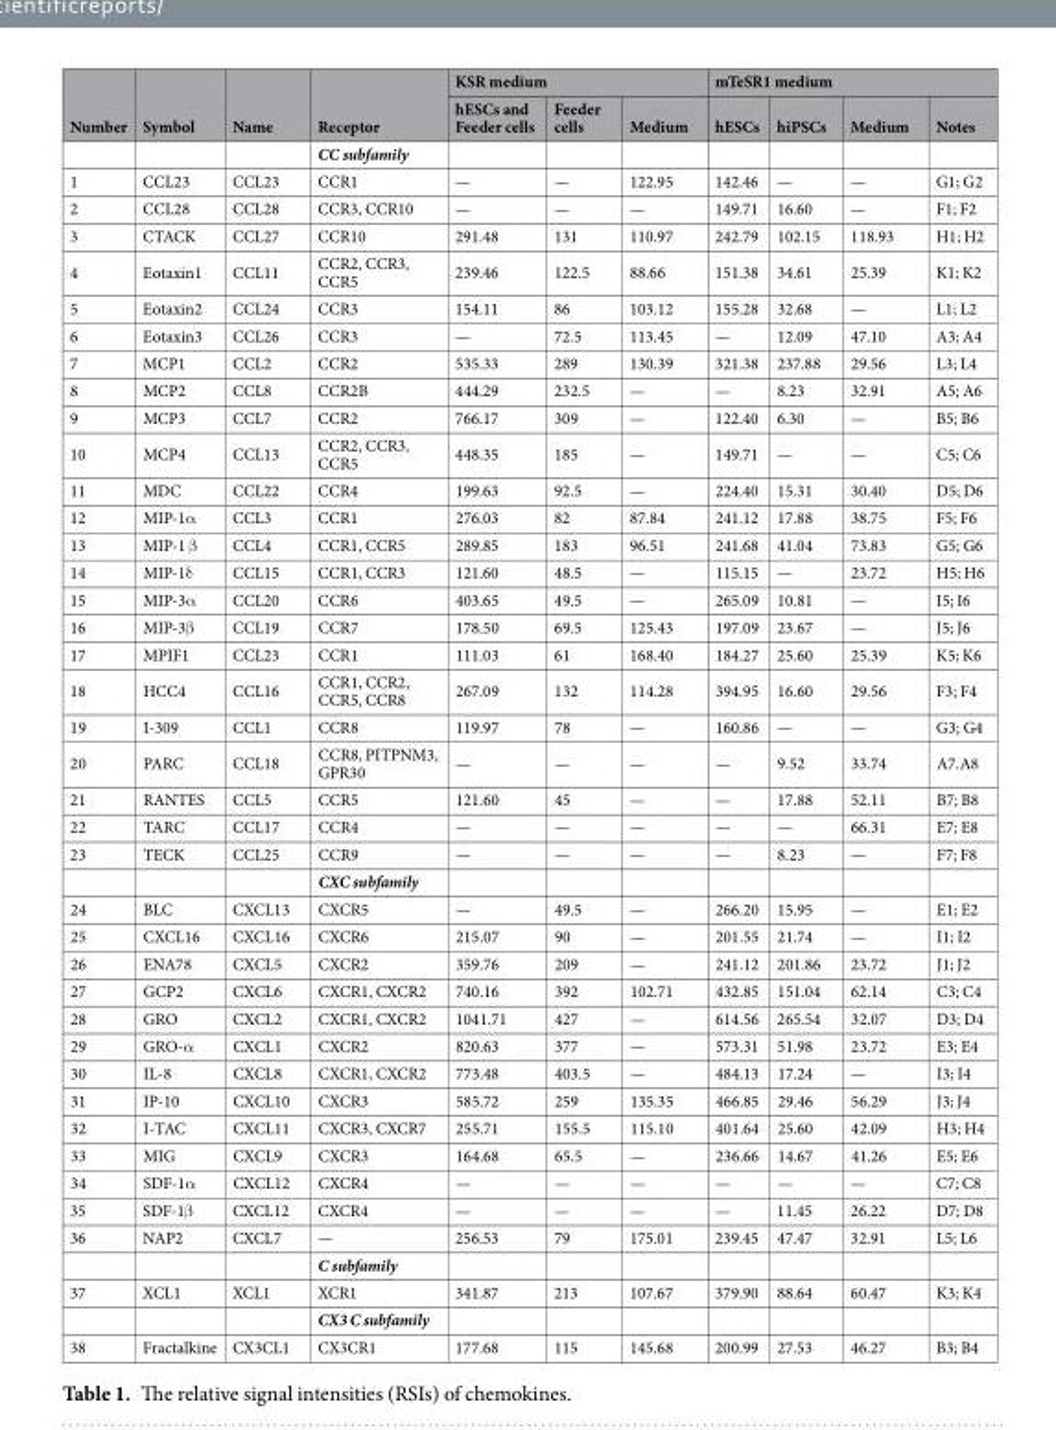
<table><thead><tr><td rowspan="2">Number</td><td rowspan="2">Symbol</td><td rowspan="2">Name</td><td rowspan="2">Receptor</td><td colspan="3">KSR medium</td><td colspan="4">mTeSR1 medium</td></tr><tr><td>hESCs and Feeder cells</td><td>Feeder cells</td><td>Medium</td><td>hESCs</td><td>hiPSCs</td><td>Medium</td><td>Notes</td></tr></thead><tbody><tr><td></td><td></td><td></td><td>CC subfamily</td><td></td><td></td><td></td><td></td><td></td><td></td><td></td></tr><tr><td>1</td><td>CCL23</td><td>CCL23</td><td>CCR1</td><td>—</td><td>—</td><td>122.95</td><td>142.46</td><td>—</td><td>—</td><td>G1; G2</td></tr><tr><td>2</td><td>CCL28</td><td>CCL28</td><td>CCR3, CCR10</td><td>—</td><td>—</td><td>—</td><td>149.71</td><td>16.60</td><td>—</td><td>F1; F2</td></tr><tr><td>3</td><td>CTACK</td><td>CCL27</td><td>CCR10</td><td>291.48</td><td>131</td><td>110.97</td><td>242.79</td><td>102.15</td><td>118.93</td><td>H1; H2</td></tr><tr><td>4</td><td>Eotaxin1</td><td>CCL11</td><td>CCR2, CCR3, CCR5</td><td>239.46</td><td>122.5</td><td>88.66</td><td>151.38</td><td>34.61</td><td>25.39</td><td>K1; K2</td></tr><tr><td>5</td><td>Eotaxin2</td><td>CCL24</td><td>CCR3</td><td>154.11</td><td>86</td><td>103.12</td><td>155.28</td><td>32.68</td><td>—</td><td>L1; L2</td></tr><tr><td>6</td><td>Eotaxin3</td><td>CCL26</td><td>CCR3</td><td>—</td><td>72.5</td><td>113.45</td><td>—</td><td>12.09</td><td>47.10</td><td>A3; A4</td></tr><tr><td>7</td><td>MCP1</td><td>CCL2</td><td>CCR2</td><td>535.33</td><td>289</td><td>130.39</td><td>321.38</td><td>237.88</td><td>29.56</td><td>L3; L4</td></tr><tr><td>8</td><td>MCP2</td><td>CCL8</td><td>CCR2B</td><td>444.29</td><td>232.5</td><td>—</td><td>—</td><td>8.23</td><td>32.91</td><td>A5; A6</td></tr><tr><td>9</td><td>MCP3</td><td>CCL7</td><td>CCR2</td><td>766.17</td><td>309</td><td>—</td><td>122.40</td><td>6.30</td><td>—</td><td>B5; B6</td></tr><tr><td>10</td><td>MCP4</td><td>CCL13</td><td>CCR2, CCR3, CCR5</td><td>448.35</td><td>185</td><td>—</td><td>149.71</td><td>—</td><td>—</td><td>C5; C6</td></tr><tr><td>11</td><td>MDC</td><td>CCL22</td><td>CCR4</td><td>199.63</td><td>92.5</td><td>—</td><td>224.40</td><td>15.31</td><td>30.40</td><td>D5; D6</td></tr><tr><td>12</td><td>MIP-1α</td><td>CCL3</td><td>CCR1</td><td>276.03</td><td>82</td><td>87.84</td><td>241.12</td><td>17.88</td><td>38.75</td><td>F5; F6</td></tr><tr><td>13</td><td>MIP-1 β</td><td>CCL4</td><td>CCR1, CCR5</td><td>289.85</td><td>183</td><td>96.51</td><td>241.68</td><td>41.04</td><td>73.83</td><td>G5; G6</td></tr><tr><td>14</td><td>MIP-1δ</td><td>CCL15</td><td>CCR1, CCR3</td><td>121.60</td><td>48.5</td><td>—</td><td>115.15</td><td>—</td><td>23.72</td><td>H5; H6</td></tr><tr><td>15</td><td>MIP-3α</td><td>CCL20</td><td>CCR6</td><td>403.65</td><td>49.5</td><td>—</td><td>265.09</td><td>10.81</td><td>—</td><td>I5; I6</td></tr><tr><td>16</td><td>MIP-3β</td><td>CCL19</td><td>CCR7</td><td>178.50</td><td>69.5</td><td>125.43</td><td>197.09</td><td>23.67</td><td>—</td><td>J5; J6</td></tr><tr><td>17</td><td>MPIF1</td><td>CCL23</td><td>CCR1</td><td>111.03</td><td>61</td><td>168.40</td><td>184.27</td><td>25.60</td><td>25.39</td><td>K5; K6</td></tr><tr><td>18</td><td>HCC4</td><td>CCL16</td><td>CCR1, CCR2, CCR5, CCR8</td><td>267.09</td><td>132</td><td>114.28</td><td>394.95</td><td>16.60</td><td>29.56</td><td>F3; F4</td></tr><tr><td>19</td><td>I-309</td><td>CCL1</td><td>CCR8</td><td>119.97</td><td>78</td><td>—</td><td>160.86</td><td>—</td><td>—</td><td>G3; G4</td></tr><tr><td>20</td><td>PARC</td><td>CCL18</td><td>CCR8, PITPNM3, GPR30</td><td>—</td><td>—</td><td>—</td><td>—</td><td>9.52</td><td>33.74</td><td>A7.A8</td></tr><tr><td>21</td><td>RANTES</td><td>CCL5</td><td>CCR5</td><td>121.60</td><td>45</td><td>—</td><td>—</td><td>17.88</td><td>52.11</td><td>B7; B8</td></tr><tr><td>22</td><td>TARC</td><td>CCL17</td><td>CCR4</td><td>—</td><td>—</td><td>—</td><td>—</td><td>—</td><td>66.31</td><td>E7; E8</td></tr><tr><td rowspan="2">23</td><td>TECK</td><td>CCL25</td><td>CCR9</td><td>—</td><td>—</td><td>—</td><td>—</td><td>8.23</td><td>—</td><td>F7; F8</td></tr><tr><td></td><td></td><td>CXC subfamily</td><td></td><td></td><td></td><td></td><td></td><td></td><td></td></tr><tr><td>24</td><td>BLC</td><td>CXCL13</td><td>CXCR5</td><td>—</td><td>49.5</td><td>—</td><td>266.20</td><td>15.95</td><td>—</td><td>E1; E2</td></tr><tr><td>25</td><td>CXCL16</td><td>CXCL16</td><td>CXCR6</td><td>215.07</td><td>90</td><td>—</td><td>201.55</td><td>21.74</td><td>—</td><td>I1; I2</td></tr><tr><td>26</td><td>ENA78</td><td>CXCL5</td><td>CXCR2</td><td>359.76</td><td>209</td><td>—</td><td>241.12</td><td>201.86</td><td>23.72</td><td>J1; J2</td></tr><tr><td>27</td><td>GCP2</td><td>CXCL6</td><td>CXCR1, CXCR2</td><td>740.16</td><td>392</td><td>102.71</td><td>432.85</td><td>151.04</td><td>62.14</td><td>C3; C4</td></tr><tr><td>28</td><td>GRO</td><td>CXCL2</td><td>CXCR1, CXCR2</td><td>1041.71</td><td>427</td><td>—</td><td>614.56</td><td>265.54</td><td>32.07</td><td>D3; D4</td></tr><tr><td>29</td><td>GRO-α</td><td>CXCL1</td><td>CXCR2</td><td>820.63</td><td>377</td><td>—</td><td>573.31</td><td>51.98</td><td>23.72</td><td>E3; E4</td></tr><tr><td>30</td><td>IL-8</td><td>CXCL8</td><td>CXCR1, CXCR2</td><td>773.48</td><td>403.5</td><td>—</td><td>484.13</td><td>17.24</td><td>—</td><td>I3; I4</td></tr><tr><td>31</td><td>IP-10</td><td>CXCL10</td><td>CXCR3</td><td>585.72</td><td>259</td><td>135.35</td><td>466.85</td><td>29.46</td><td>56.29</td><td>J3; J4</td></tr><tr><td>32</td><td>I-TAC</td><td>CXCL11</td><td>CXCR3, CXCR7</td><td>255.71</td><td>155.5</td><td>115.10</td><td>401.64</td><td>25.60</td><td>42.09</td><td>H3; H4</td></tr><tr><td>33</td><td>MIG</td><td>CXCL9</td><td>CXCR3</td><td>164.68</td><td>65.5</td><td>—</td><td>236.66</td><td>14.67</td><td>41.26</td><td>E5; E6</td></tr><tr><td>34</td><td>SDF-1α</td><td>CXCL12</td><td>CXCR4</td><td>—</td><td>—</td><td>—</td><td>—</td><td>—</td><td>—</td><td>C7; C8</td></tr><tr><td>35</td><td>SDF-1β</td><td>CXCL12</td><td>CXCR4</td><td>—</td><td>—</td><td>—</td><td>—</td><td>11.45</td><td>26.22</td><td>D7; D8</td></tr><tr><td rowspan="2">36</td><td>NAP2</td><td>CXCL7</td><td>—</td><td>256.53</td><td>79</td><td>175.01</td><td>239.45</td><td>47.47</td><td>32.91</td><td>L5; L6</td></tr><tr><td></td><td></td><td>C subfamily</td><td></td><td></td><td></td><td></td><td></td><td></td><td></td></tr><tr><td rowspan="2">37</td><td>XCL1</td><td>XCL1</td><td>XCR1</td><td>341.87</td><td>213</td><td>107.67</td><td>379.90</td><td>88.64</td><td>60.47</td><td>K3; K4</td></tr><tr><td></td><td></td><td>CX3 C subfamily</td><td></td><td></td><td></td><td></td><td></td><td></td><td></td></tr><tr><td>38</td><td>Fractalkine</td><td>CX3CL1</td><td>CX3CR1</td><td>177.68</td><td>115</td><td>145.68</td><td>200.99</td><td>27.53</td><td>46.27</td><td>B3; B4</td></tr></tbody></table>